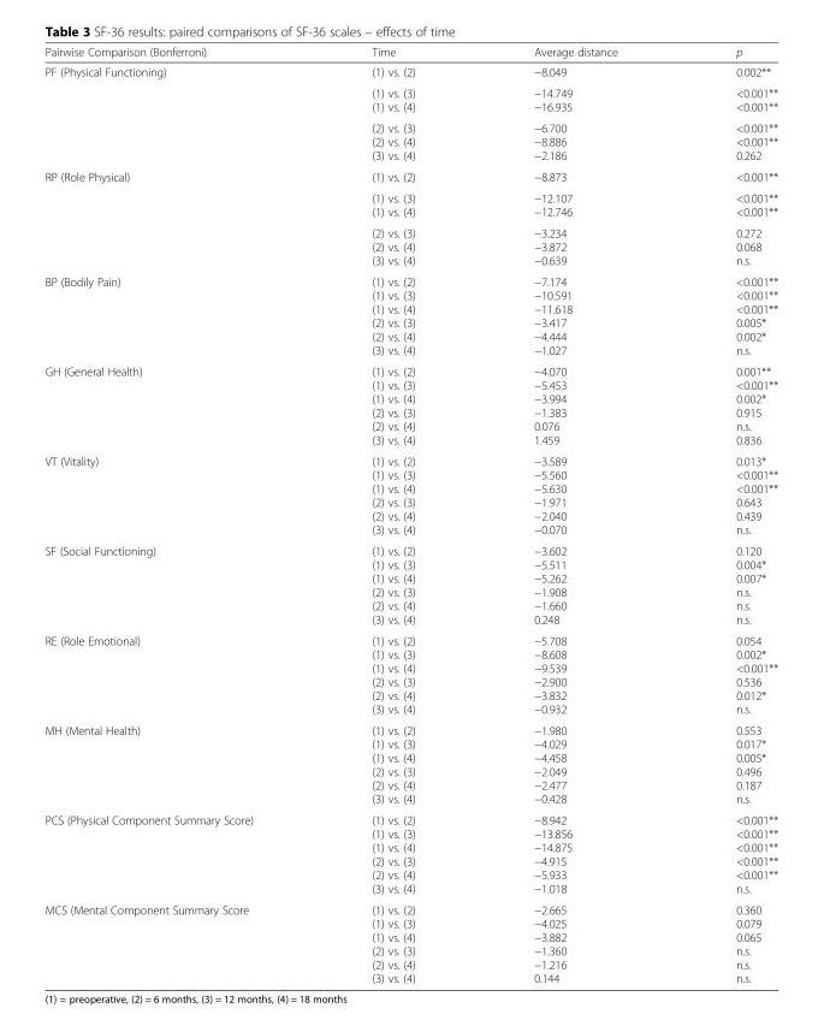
<table><thead><tr><td>Pairwise Comparison (Bonferroni)</td><td>Time</td><td>Average distance</td><td>p</td></tr></thead><tbody><tr><td rowspan="3">PF (Physical Functioning)</td><td>(1) vs. (2)</td><td>−8.049</td><td>0.002**</td></tr><tr><td>(1) vs. (3) (1) vs. (4)</td><td>−14.749 −16.935</td><td>&lt;0.001** &lt;0.001**</td></tr><tr><td>(2) vs. (3) (2) vs. (4) (3) vs. (4)</td><td>−6.700 −8.886 −2.186</td><td>&lt;0.001** &lt;0.001** 0.262</td></tr><tr><td rowspan="3">RP (Role Physical)</td><td>(1) vs. (2)</td><td>−8.873</td><td>&lt;0.001**</td></tr><tr><td>(1) vs. (3) (1) vs. (4)</td><td>−12.107 −12.746</td><td>&lt;0.001** &lt;0.001**</td></tr><tr><td>(2) vs. (3) (2) vs. (4) (3) vs. (4)</td><td>−3.234 −3.872 −0.639</td><td>0.272 0.068 n.s.</td></tr><tr><td>BP (Bodily Pain)</td><td>(1) vs. (2) (1) vs. (3) (1) vs. (4) (2) vs. (3) (2) vs. (4) (3) vs. (4)</td><td>−7.174 −10.591 −11.618 −3.417 −4.444 −1.027</td><td>&lt;0.001** &lt;0.001** &lt;0.001** 0.005* 0.002* n.s.</td></tr><tr><td>GH (General Health)</td><td>(1) vs. (2) (1) vs. (3) (1) vs. (4) (2) vs. (3) (2) vs. (4) (3) vs. (4)</td><td>−4.070 −5.453 −3.994 −1.383 0.076 1.459</td><td>0.001** &lt;0.001** 0.002* 0.915 n.s. 0.836</td></tr><tr><td>VT (Vitality)</td><td>(1) vs. (2) (1) vs. (3) (1) vs. (4) (2) vs. (3) (2) vs. (4) (3) vs. (4)</td><td>−3.589 −5.560 −5.630 −1.971 −2.040 −0.070</td><td>0.013* &lt;0.001** &lt;0.001** 0.643 0.439 n.s.</td></tr><tr><td>SF (Social Functioning)</td><td>(1) vs. (2) (1) vs. (3) (1) vs. (4) (2) vs. (3) (2) vs. (4) (3) vs. (4)</td><td>−3.602 −5.511 −5.262 −1.908 −1.660 0.248</td><td>0.120 0.004* 0.007* n.s. n.s. n.s.</td></tr><tr><td>RE (Role Emotional)</td><td>(1) vs. (2) (1) vs. (3) (1) vs. (4) (2) vs. (3) (2) vs. (4) (3) vs. (4)</td><td>−5.708 −8.608 −9.539 −2.900 −3.832 −0.932</td><td>0.054 0.002* &lt;0.001** 0.536 0.012* n.s.</td></tr><tr><td>MH (Mental Health)</td><td>(1) vs. (2) (1) vs. (3) (1) vs. (4) (2) vs. (3) (2) vs. (4) (3) vs. (4)</td><td>−1.980 −4.029 −4.458 −2.049 −2.477 −0.428</td><td>0.553 0.017* 0.005* 0.496 0.187 n.s.</td></tr><tr><td>PCS (Physical Component Summary Score)</td><td>(1) vs. (2) (1) vs. (3) (1) vs. (4) (2) vs. (3) (2) vs. (4) (3) vs. (4)</td><td>−8.942 −13.856 −14.875 −4.915 −5.933 −1.018</td><td>&lt;0.001** &lt;0.001** &lt;0.001** &lt;0.001** &lt;0.001** n.s.</td></tr><tr><td>MCS (Mental Component Summary Score</td><td>(1) vs. (2) (1) vs. (3) (1) vs. (4) (2) vs. (3) (2) vs. (4) (3) vs. (4)</td><td>−2.665 −4.025 −3.882 −1.360 −1.216 0.144</td><td>0.360 0.079 0.065 n.s. n.s. n.s.</td></tr></tbody></table>